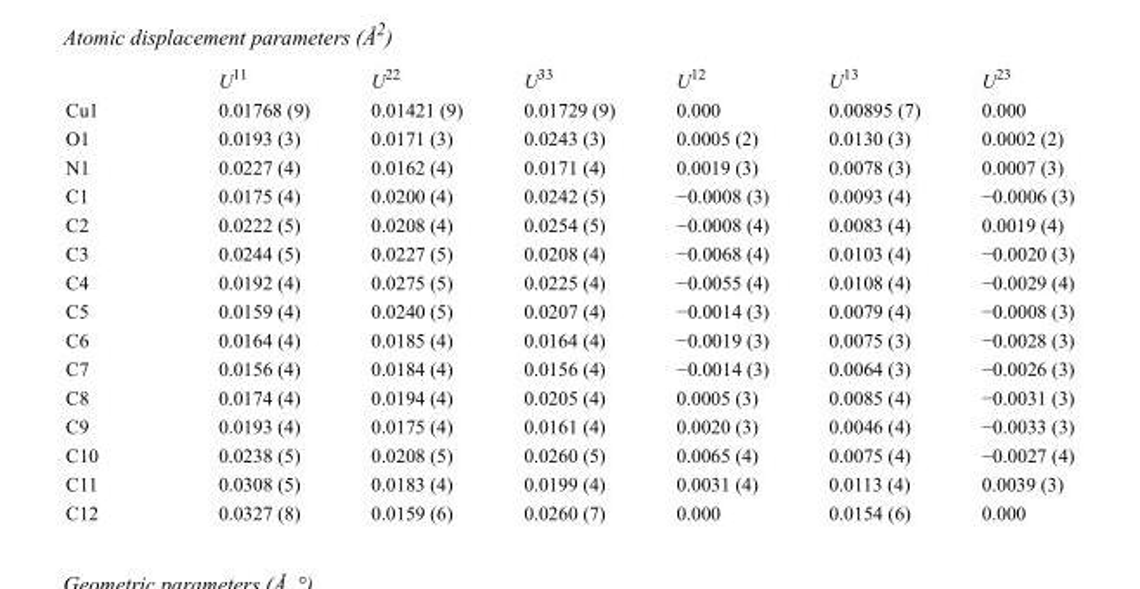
<table><thead><tr><td></td><td>U<sup>11</sup></td><td>U<sup>22</sup></td><td>U<sup>33</sup></td><td>U<sup>12</sup></td><td>U<sup>13</sup></td><td>U<sup>23</sup></td></tr></thead><tbody><tr><td>Cu1</td><td>0.01768 (9)</td><td>0.01421 (9)</td><td>0.01729 (9)</td><td>0.000</td><td>0.00895 (7)</td><td>0.000</td></tr><tr><td>O1</td><td>0.0193 (3)</td><td>0.0171 (3)</td><td>0.0243 (3)</td><td>0.0005 (2)</td><td>0.0130 (3)</td><td>0.0002 (2)</td></tr><tr><td>N1</td><td>0.0227 (4)</td><td>0.0162 (4)</td><td>0.0171 (4)</td><td>0.0019 (3)</td><td>0.0078 (3)</td><td>0.0007 (3)</td></tr><tr><td>C1</td><td>0.0175 (4)</td><td>0.0200 (4)</td><td>0.0242 (5)</td><td>−0.0008 (3)</td><td>0.0093 (4)</td><td>−0.0006 (3)</td></tr><tr><td>C2</td><td>0.0222 (5)</td><td>0.0208 (4)</td><td>0.0254 (5)</td><td>−0.0008 (4)</td><td>0.0083 (4)</td><td>0.0019 (4)</td></tr><tr><td>C3</td><td>0.0244 (5)</td><td>0.0227 (5)</td><td>0.0208 (4)</td><td>−0.0068 (4)</td><td>0.0103 (4)</td><td>−0.0020 (3)</td></tr><tr><td>C4</td><td>0.0192 (4)</td><td>0.0275 (5)</td><td>0.0225 (4)</td><td>−0.0055 (4)</td><td>0.0108 (4)</td><td>−0.0029 (4)</td></tr><tr><td>C5</td><td>0.0159 (4)</td><td>0.0240 (5)</td><td>0.0207 (4)</td><td>−0.0014 (3)</td><td>0.0079 (4)</td><td>−0.0008 (3)</td></tr><tr><td>C6</td><td>0.0164 (4)</td><td>0.0185 (4)</td><td>0.0164 (4)</td><td>−0.0019 (3)</td><td>0.0075 (3)</td><td>−0.0028 (3)</td></tr><tr><td>C7</td><td>0.0156 (4)</td><td>0.0184 (4)</td><td>0.0156 (4)</td><td>−0.0014 (3)</td><td>0.0064 (3)</td><td>−0.0026 (3)</td></tr><tr><td>C8</td><td>0.0174 (4)</td><td>0.0194 (4)</td><td>0.0205 (4)</td><td>0.0005 (3)</td><td>0.0085 (4)</td><td>−0.0031 (3)</td></tr><tr><td>C9</td><td>0.0193 (4)</td><td>0.0175 (4)</td><td>0.0161 (4)</td><td>0.0020 (3)</td><td>0.0046 (4)</td><td>−0.0033 (3)</td></tr><tr><td>C10</td><td>0.0238 (5)</td><td>0.0208 (5)</td><td>0.0260 (5)</td><td>0.0065 (4)</td><td>0.0075 (4)</td><td>−0.0027 (4)</td></tr><tr><td>C11</td><td>0.0308 (5)</td><td>0.0183 (4)</td><td>0.0199 (4)</td><td>0.0031 (4)</td><td>0.0113 (4)</td><td>0.0039 (3)</td></tr><tr><td>C12</td><td>0.0327 (8)</td><td>0.0159 (6)</td><td>0.0260 (7)</td><td>0.000</td><td>0.0154 (6)</td><td>0.000</td></tr></tbody></table>